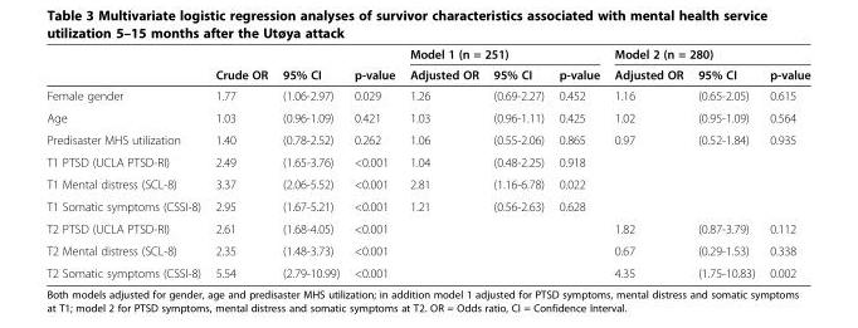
<table><thead><tr><td rowspan="2"></td><td rowspan="2">Crude OR</td><td rowspan="2">95% CI</td><td rowspan="2">p-value</td><td colspan="3">Model 1 (n = 251)</td><td colspan="3">Model 2 (n = 280)</td></tr><tr><td>Adjusted OR</td><td>95% CI</td><td>p-value</td><td>Adjusted OR</td><td>95% CI</td><td>p-value</td></tr></thead><tbody><tr><td>Female gender</td><td>1.77</td><td>(1.06-2.97)</td><td>0.029</td><td>1.26</td><td>(0.69-2.27)</td><td>0.452</td><td>1.16</td><td>(0.65-2.05)</td><td>0.615</td></tr><tr><td>Age</td><td>1.03</td><td>(0.96-1.09)</td><td>0.421</td><td>1.03</td><td>(0.96-1.11)</td><td>0.425</td><td>1.02</td><td>(0.95-1.09)</td><td>0.564</td></tr><tr><td>Predisaster MHS utilization</td><td>1.40</td><td>(0.78-2.52)</td><td>0.262</td><td>1.06</td><td>(0.55-2.06)</td><td>0.865</td><td>0.97</td><td>(0.52-1.84)</td><td>0.935</td></tr><tr><td>T1 PTSD (UCLA PTSD-RI)</td><td>2.49</td><td>(1.65-3.76)</td><td>&lt;0.001</td><td>1.04</td><td>(0.48-2.25)</td><td>0.918</td><td></td><td></td><td></td></tr><tr><td>T1 Mental distress (SCL-8)</td><td>3.37</td><td>(2.06-5.52)</td><td>&lt;0.001</td><td>2.81</td><td>(1.16-6.78)</td><td>0.022</td><td></td><td></td><td></td></tr><tr><td>T1 Somatic symptoms (CSSI-8)</td><td>2.95</td><td>(1.67-5.21)</td><td>&lt;0.001</td><td>1.21</td><td>(0.56-2.63)</td><td>0.628</td><td></td><td></td><td></td></tr><tr><td>T2 PTSD (UCLA PTSD-RI)</td><td>2.61</td><td>(1.68-4.05)</td><td>&lt;0.001</td><td></td><td></td><td></td><td>1.82</td><td>(0.87-3.79)</td><td>0.112</td></tr><tr><td>T2 Mental distress (SCL-8)</td><td>2.35</td><td>(1.48-3.73)</td><td>&lt;0.001</td><td></td><td></td><td></td><td>0.67</td><td>(0.29-1.53)</td><td>0.338</td></tr><tr><td>T2 Somatic symptoms (CSSI-8)</td><td>5.54</td><td>(2.79-10.99)</td><td>&lt;0.001</td><td></td><td></td><td></td><td>4.35</td><td>(1.75-10.83)</td><td>0.002</td></tr></tbody></table>